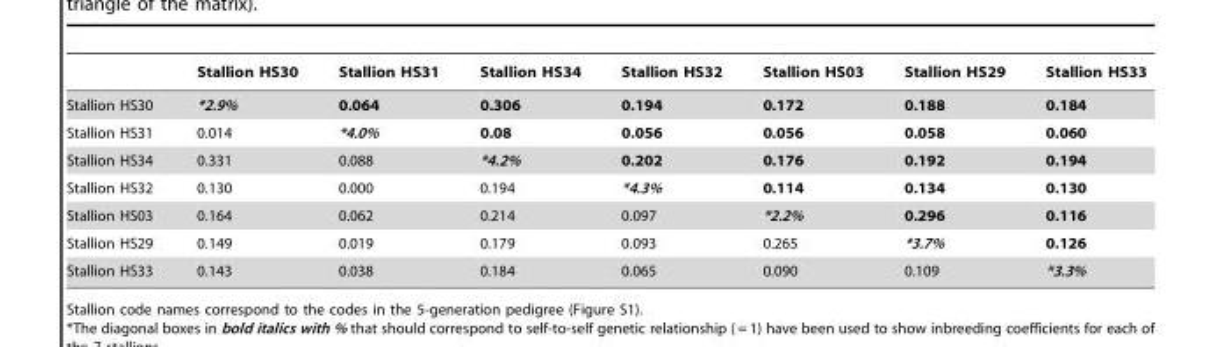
<table><thead><tr><td></td><td>Stallion HS30</td><td>Stallion HS31</td><td>Stallion HS34</td><td>Stallion HS32</td><td>Stallion HS03</td><td>Stallion HS29</td><td>Stallion HS33</td></tr></thead><tbody><tr><td>Stallion HS30</td><td>*2.9%</td><td>0.064</td><td>0.306</td><td>0.194</td><td>0.172</td><td>0.188</td><td>0.184</td></tr><tr><td>Stallion HS31</td><td>0.014</td><td>*4.0%</td><td>0.08</td><td>0.056</td><td>0.056</td><td>0.058</td><td>0.060</td></tr><tr><td>Stallion HS34</td><td>0.331</td><td>0.088</td><td>*4.2%</td><td>0.202</td><td>0.176</td><td>0.192</td><td>0.194</td></tr><tr><td>Stallion HS32</td><td>0.130</td><td>0.000</td><td>0.194</td><td>*4.3%</td><td>0.114</td><td>0.134</td><td>0.130</td></tr><tr><td>Stallion HS03</td><td>0.164</td><td>0.062</td><td>0.214</td><td>0.097</td><td>*2.2%</td><td>0.296</td><td>0.116</td></tr><tr><td>Stallion HS29</td><td>0.149</td><td>0.019</td><td>0.179</td><td>0.093</td><td>0.265</td><td>*3.7%</td><td>0.126</td></tr><tr><td>Stallion HS33</td><td>0.143</td><td>0.038</td><td>0.184</td><td>0.065</td><td>0.090</td><td>0.109</td><td>*3.3%</td></tr></tbody></table>